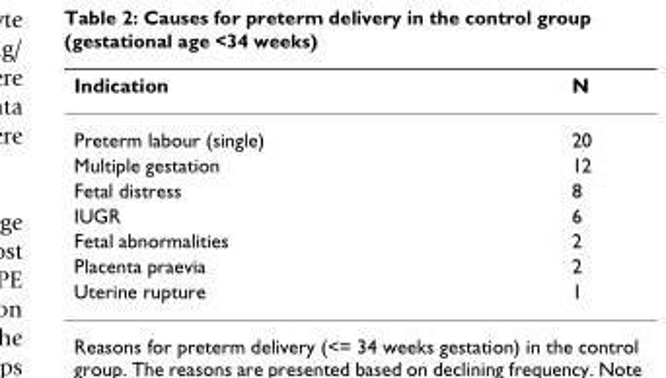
<table><thead><tr><td>Indication</td><td>N</td></tr></thead><tbody><tr><td>Preterm labour (single)</td><td>20</td></tr><tr><td>Multiple gestation</td><td>12</td></tr><tr><td>Fetal distress</td><td>8</td></tr><tr><td>IUGR</td><td>6</td></tr><tr><td>Fetal abnormalities</td><td>2</td></tr><tr><td>Placenta praevia</td><td>2</td></tr><tr><td>Uterine rupture</td><td>1</td></tr></tbody></table>